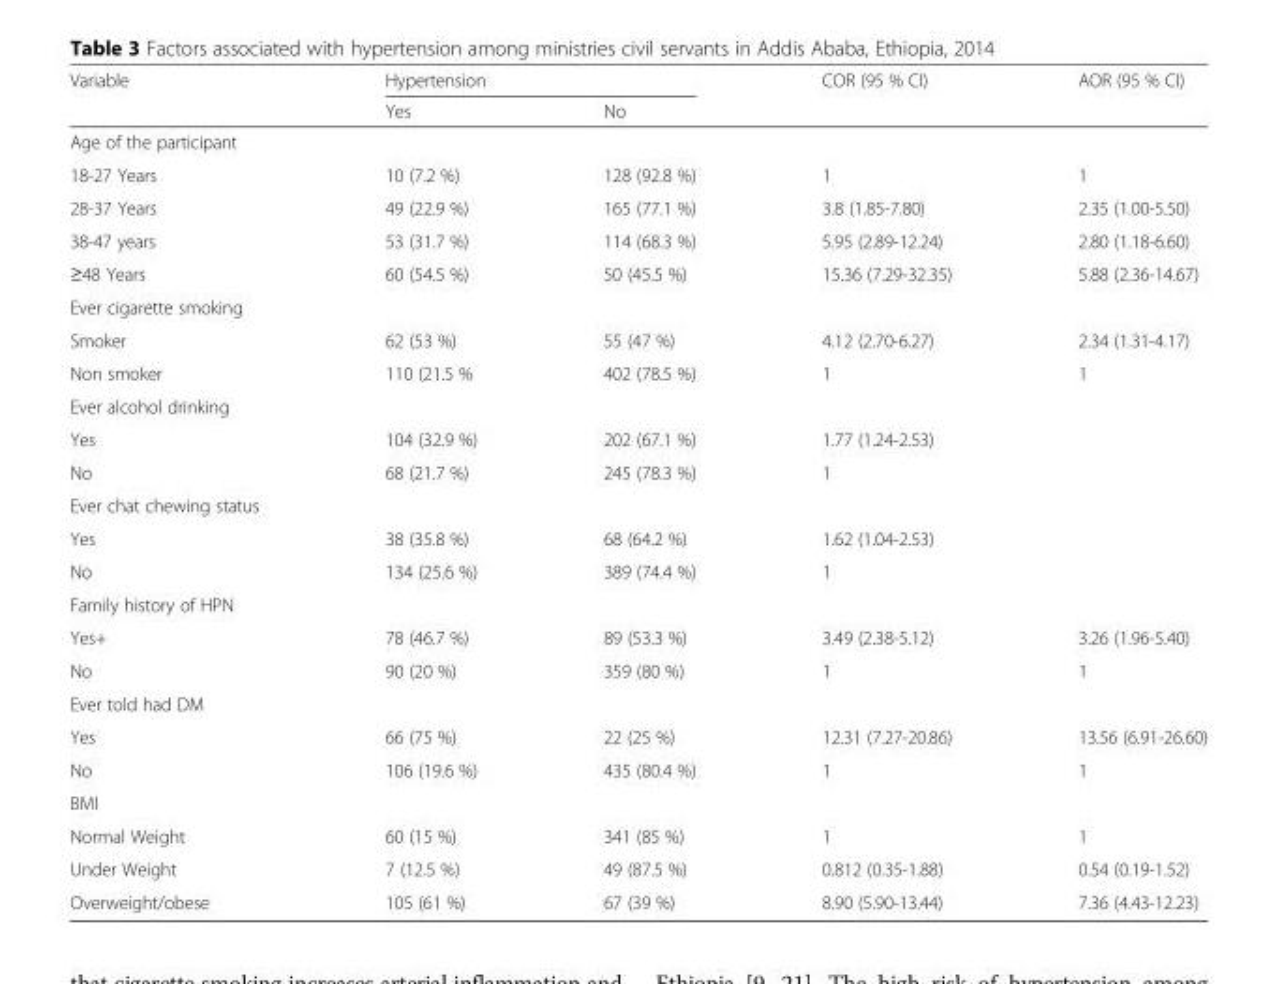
<table><thead><tr><td rowspan="2">Variable</td><td colspan="2">Hypertension</td><td rowspan="2">COR (95 % CI)</td><td rowspan="2">AOR (95 % CI)</td></tr><tr><td>Yes</td><td>No</td></tr></thead><tbody><tr><td colspan="5">Age of the participant</td></tr><tr><td>18-27 Years</td><td>10 (7.2 %)</td><td>128 (92.8 %)</td><td>1</td><td>1</td></tr><tr><td>28-37 Years</td><td>49 (22.9 %)</td><td>165 (77.1 %)</td><td>3.8 (1.85-7.80)</td><td>2.35 (1.00-5.50)</td></tr><tr><td>38-47 years</td><td>53 (31.7 %)</td><td>114 (68.3 %)</td><td>5.95 (2.89-12.24)</td><td>2.80 (1.18-6.60)</td></tr><tr><td>≥48 Years</td><td>60 (54.5 %)</td><td>50 (45.5 %)</td><td>15.36 (7.29-32.35)</td><td>5.88 (2.36-14.67)</td></tr><tr><td colspan="5">Ever cigarette smoking</td></tr><tr><td>Smoker</td><td>62 (53 %)</td><td>55 (47 %)</td><td>4.12 (2.70-6.27)</td><td>2.34 (1.31-4.17)</td></tr><tr><td>Non smoker</td><td>110 (21.5 %</td><td>402 (78.5 %)</td><td>1</td><td>1</td></tr><tr><td colspan="5">Ever alcohol drinking</td></tr><tr><td>Yes</td><td>104 (32.9 %)</td><td>202 (67.1 %)</td><td>1.77 (1.24-2.53)</td><td></td></tr><tr><td>No</td><td>68 (21.7 %)</td><td>245 (78.3 %)</td><td>1</td><td></td></tr><tr><td colspan="5">Ever chat chewing status</td></tr><tr><td>Yes</td><td>38 (35.8 %)</td><td>68 (64.2 %)</td><td>1.62 (1.04-2.53)</td><td></td></tr><tr><td>No</td><td>134 (25.6 %)</td><td>389 (74.4 %)</td><td>1</td><td></td></tr><tr><td colspan="5">Family history of HPN</td></tr><tr><td>Yes+</td><td>78 (46.7 %)</td><td>89 (53.3 %)</td><td>3.49 (2.38-5.12)</td><td>3.26 (1.96-5.40)</td></tr><tr><td>No</td><td>90 (20 %)</td><td>359 (80 %)</td><td>1</td><td>1</td></tr><tr><td colspan="5">Ever told had DM</td></tr><tr><td>Yes</td><td>66 (75 %)</td><td>22 (25 %)</td><td>12.31 (7.27-20.86)</td><td>13.56 (6.91-26.60)</td></tr><tr><td>No</td><td>106 (19.6 %)</td><td>435 (80.4 %)</td><td>1</td><td>1</td></tr><tr><td colspan="5">BMI</td></tr><tr><td>Normal Weight</td><td>60 (15 %)</td><td>341 (85 %)</td><td>1</td><td>1</td></tr><tr><td>Under Weight</td><td>7 (12.5 %)</td><td>49 (87.5 %)</td><td>0.812 (0.35-1.88)</td><td>0.54 (0.19-1.52)</td></tr><tr><td>Overweight/obese</td><td>105 (61 %)</td><td>67 (39 %)</td><td>8.90 (5.90-13.44)</td><td>7.36 (4.43-12.23)</td></tr></tbody></table>